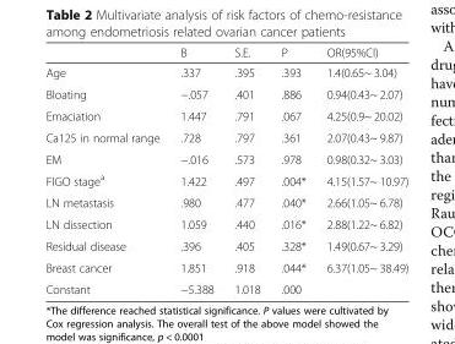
<table><thead><tr><td></td><td>B</td><td>S.E.</td><td>P</td><td>OR(95%CI)</td></tr></thead><tbody><tr><td>Age</td><td>.337</td><td>.395</td><td>.393</td><td>1.4(0.65~ 3.04)</td></tr><tr><td>Bloating</td><td>−.057</td><td>.401</td><td>.886</td><td>0.94(0.43~ 2.07)</td></tr><tr><td>Emaciation</td><td>1.447</td><td>.791</td><td>.067</td><td>4.25(0.9~ 20.02)</td></tr><tr><td>Ca125 in normal range</td><td>.728</td><td>.797</td><td>.361</td><td>2.07(0.43~ 9.87)</td></tr><tr><td>EM</td><td>−.016</td><td>.573</td><td>.978</td><td>0.98(0.32~ 3.03)</td></tr><tr><td>FIGO stage<sup>a</sup></td><td>1.422</td><td>.497</td><td>.004*</td><td>4.15(1.57~ 10.97)</td></tr><tr><td>LN metastasis</td><td>.980</td><td>.477</td><td>.040*</td><td>2.66(1.05~ 6.78)</td></tr><tr><td>LN dissection</td><td>1.059</td><td>.440</td><td>.016*</td><td>2.88(1.22~ 6.82)</td></tr><tr><td>Residual disease</td><td>.396</td><td>.405</td><td>.328*</td><td>1.49(0.67~ 3.29)</td></tr><tr><td>Breast cancer</td><td>1.851</td><td>.918</td><td>.044*</td><td>6.37(1.05~ 38.49)</td></tr><tr><td>Constant</td><td>−5.388</td><td>1.018</td><td>.000</td><td></td></tr></tbody></table>